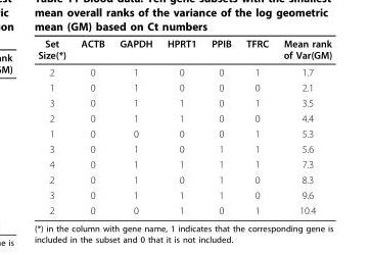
<table><thead><tr><td>Set Size(*)</td><td>ACTB</td><td>GAPDH</td><td>HPRT1</td><td>PPIB</td><td>TFRC</td><td>Mean rank of Var(GM)</td></tr></thead><tbody><tr><td>2</td><td>0</td><td>1</td><td>0</td><td>0</td><td>1</td><td>1.7</td></tr><tr><td>1</td><td>0</td><td>1</td><td>0</td><td>0</td><td>0</td><td>2.1</td></tr><tr><td>3</td><td>0</td><td>1</td><td>1</td><td>0</td><td>1</td><td>3.5</td></tr><tr><td>2</td><td>0</td><td>1</td><td>1</td><td>0</td><td>0</td><td>4.4</td></tr><tr><td>1</td><td>0</td><td>0</td><td>0</td><td>0</td><td>1</td><td>5.3</td></tr><tr><td>3</td><td>0</td><td>1</td><td>0</td><td>1</td><td>1</td><td>5.6</td></tr><tr><td>4</td><td>0</td><td>1</td><td>1</td><td>1</td><td>1</td><td>7.3</td></tr><tr><td>2</td><td>0</td><td>1</td><td>0</td><td>1</td><td>0</td><td>8.3</td></tr><tr><td>3</td><td>0</td><td>1</td><td>1</td><td>1</td><td>0</td><td>9.6</td></tr><tr><td>2</td><td>0</td><td>0</td><td>1</td><td>0</td><td>1</td><td>10.4</td></tr></tbody></table>